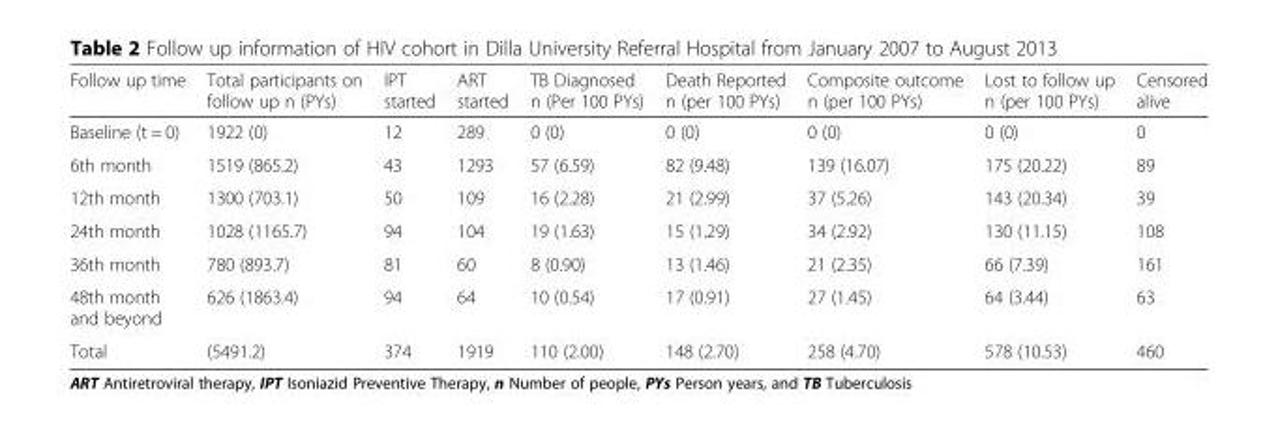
<table><thead><tr><td>Follow up time</td><td>Total participants on follow up n (PYs)</td><td>IPT started</td><td>ART started</td><td>TB Diagnosed n (Per 100 PYs)</td><td>Death Reported n (per 100 PYs)</td><td>Composite outcome n (per 100 PYs)</td><td>Lost to follow up n (per 100 PYs)</td><td>Censored alive</td></tr></thead><tbody><tr><td>Baseline (t = 0)</td><td>1922 (0)</td><td>12</td><td>289</td><td>0 (0)</td><td>0 (0)</td><td>0 (0)</td><td>0 (0)</td><td>0</td></tr><tr><td>6th month</td><td>1519 (865.2)</td><td>43</td><td>1293</td><td>57 (6.59)</td><td>82 (9.48)</td><td>139 (16.07)</td><td>175 (20.22)</td><td>89</td></tr><tr><td>12th month</td><td>1300 (703.1)</td><td>50</td><td>109</td><td>16 (2.28)</td><td>21 (2.99)</td><td>37 (5.26)</td><td>143 (20.34)</td><td>39</td></tr><tr><td>24th month</td><td>1028 (1165.7)</td><td>94</td><td>104</td><td>19 (1.63)</td><td>15 (1.29)</td><td>34 (2.92)</td><td>130 (11.15)</td><td>108</td></tr><tr><td>36th month</td><td>780 (893.7)</td><td>81</td><td>60</td><td>8 (0.90)</td><td>13 (1.46)</td><td>21 (2.35)</td><td>66 (7.39)</td><td>161</td></tr><tr><td>48th month and beyond</td><td>626 (1863.4)</td><td>94</td><td>64</td><td>10 (0.54)</td><td>17 (0.91)</td><td>27 (1.45)</td><td>64 (3.44)</td><td>63</td></tr><tr><td>Total</td><td>(5491.2)</td><td>374</td><td>1919</td><td>110 (2.00)</td><td>148 (2.70)</td><td>258 (4.70)</td><td>578 (10.53)</td><td>460</td></tr></tbody></table>